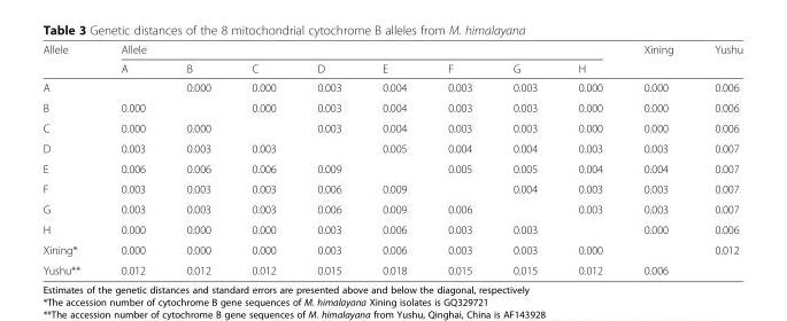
<table><thead><tr><td rowspan="2">Allele</td><td colspan="8">Allele</td><td rowspan="2">Xining</td><td rowspan="2">Yushu</td></tr><tr><td>A</td><td>B</td><td>C</td><td>D</td><td>E</td><td>F</td><td>G</td><td>H</td></tr></thead><tbody><tr><td>A</td><td></td><td>0.000</td><td>0.000</td><td>0.003</td><td>0.004</td><td>0.003</td><td>0.003</td><td>0.000</td><td>0.000</td><td>0.006</td></tr><tr><td>B</td><td>0.000</td><td></td><td>0.000</td><td>0.003</td><td>0.004</td><td>0.003</td><td>0.003</td><td>0.000</td><td>0.000</td><td>0.006</td></tr><tr><td>C</td><td>0.000</td><td>0.000</td><td></td><td>0.003</td><td>0.004</td><td>0.003</td><td>0.003</td><td>0.000</td><td>0.000</td><td>0.006</td></tr><tr><td>D</td><td>0.003</td><td>0.003</td><td>0.003</td><td></td><td>0.005</td><td>0.004</td><td>0.004</td><td>0.003</td><td>0.003</td><td>0.007</td></tr><tr><td>E</td><td>0.006</td><td>0.006</td><td>0.006</td><td>0.009</td><td></td><td>0.005</td><td>0.005</td><td>0.004</td><td>0.004</td><td>0.007</td></tr><tr><td>F</td><td>0.003</td><td>0.003</td><td>0.003</td><td>0.006</td><td>0.009</td><td></td><td>0.004</td><td>0.003</td><td>0.003</td><td>0.007</td></tr><tr><td>G</td><td>0.003</td><td>0.003</td><td>0.003</td><td>0.006</td><td>0.009</td><td>0.006</td><td></td><td>0.003</td><td>0.003</td><td>0.007</td></tr><tr><td>H</td><td>0.000</td><td>0.000</td><td>0.000</td><td>0.003</td><td>0.006</td><td>0.003</td><td>0.003</td><td></td><td>0.000</td><td>0.006</td></tr><tr><td>Xining*</td><td>0.000</td><td>0.000</td><td>0.000</td><td>0.003</td><td>0.006</td><td>0.003</td><td>0.003</td><td>0.000</td><td></td><td>0.012</td></tr><tr><td>Yushu**</td><td>0.012</td><td>0.012</td><td>0.012</td><td>0.015</td><td>0.018</td><td>0.015</td><td>0.015</td><td>0.012</td><td>0.006</td><td></td></tr></tbody></table>